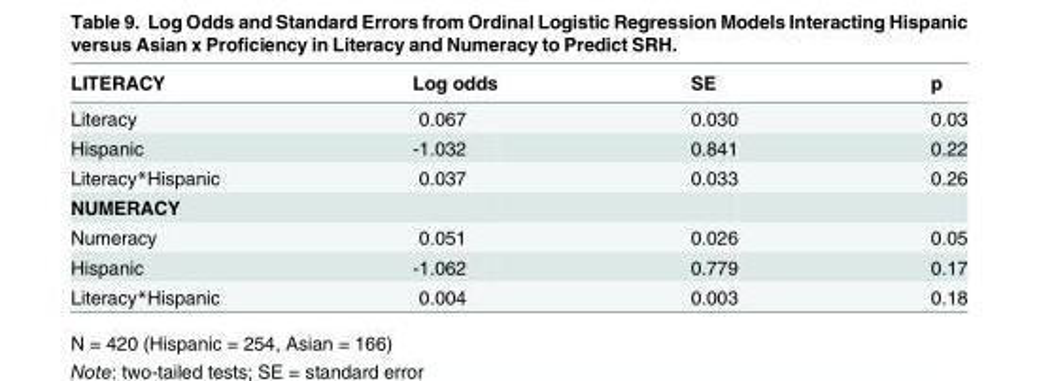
<table><thead><tr><td>LITERACY</td><td>Log odds</td><td>SE</td><td>p</td></tr></thead><tbody><tr><td>Literacy</td><td>0.067</td><td>0.030</td><td>0.03</td></tr><tr><td>Hispanic</td><td>-1.032</td><td>0.841</td><td>0.22</td></tr><tr><td>Literacy*Hispanic</td><td>0.037</td><td>0.033</td><td>0.26</td></tr><tr><td colspan="4">NUMERACY</td></tr><tr><td>Numeracy</td><td>0.051</td><td>0.026</td><td>0.05</td></tr><tr><td>Hispanic</td><td>-1.062</td><td>0.779</td><td>0.17</td></tr><tr><td>Literacy*Hispanic</td><td>0.004</td><td>0.003</td><td>0.18</td></tr></tbody></table>